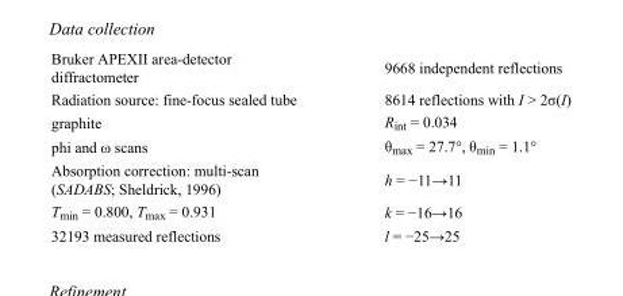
<table><tbody><tr><td>Bruker APEXII area-detector diffractometer</td><td>9668 independent reflections</td></tr><tr><td>Radiation source: fine-focus sealed tube</td><td>8614 reflections with I &gt; 2σ(I)</td></tr><tr><td>graphite</td><td>R<sub>int</sub> = 0.034</td></tr><tr><td>phi and ω scans</td><td>θ<sub>max</sub> = 27.7°, θ<sub>min</sub> = 1.1°</td></tr><tr><td>Absorption correction: multi-scan (SADABS; Sheldrick, 1996)</td><td>h = −11→11</td></tr><tr><td>T<sub>min</sub> = 0.800, T<sub>max</sub> = 0.931</td><td>k = −16→16</td></tr><tr><td>32193 measured reflections</td><td>l = −25→25</td></tr></tbody></table>